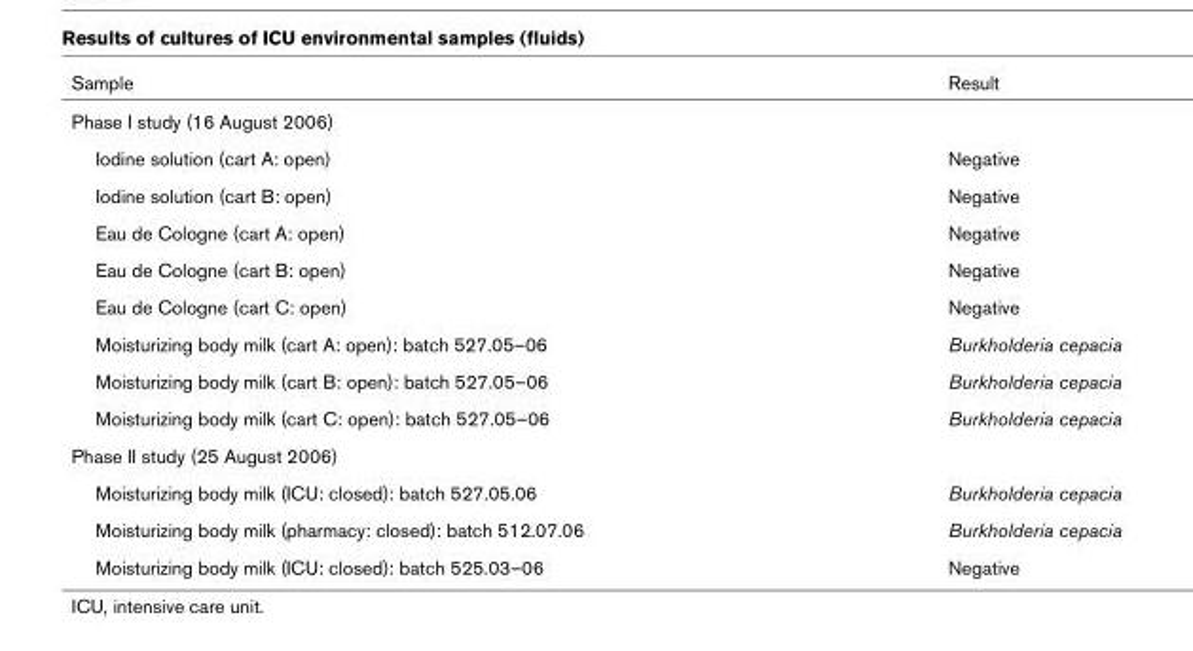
<table><thead><tr><td>Sample</td><td>Result</td></tr></thead><tbody><tr><td colspan="2">Phase I study (16 August 2006)</td></tr><tr><td>Iodine solution (cart A: open)</td><td>Negative</td></tr><tr><td>Iodine solution (cart B: open)</td><td>Negative</td></tr><tr><td>Eau de Cologne (cart A: open)</td><td>Negative</td></tr><tr><td>Eau de Cologne (cart B: open)</td><td>Negative</td></tr><tr><td>Eau de Cologne (cart C: open)</td><td>Negative</td></tr><tr><td>Moisturizing body milk (cart A: open): batch 527.05–06</td><td>Burkholderia cepacia</td></tr><tr><td>Moisturizing body milk (cart B: open): batch 527.05–06</td><td>Burkholderia cepacia</td></tr><tr><td>Moisturizing body milk (cart C: open): batch 527.05–06</td><td>Burkholderia cepacia</td></tr><tr><td colspan="2">Phase II study (25 August 2006)</td></tr><tr><td>Moisturizing body milk (ICU: closed): batch 527.05.06</td><td>Burkholderia cepacia</td></tr><tr><td>Moisturizing body milk (pharmacy: closed): batch 512.07.06</td><td>Burkholderia cepacia</td></tr><tr><td>Moisturizing body milk (ICU: closed): batch 525.03–06</td><td>Negative</td></tr></tbody></table>